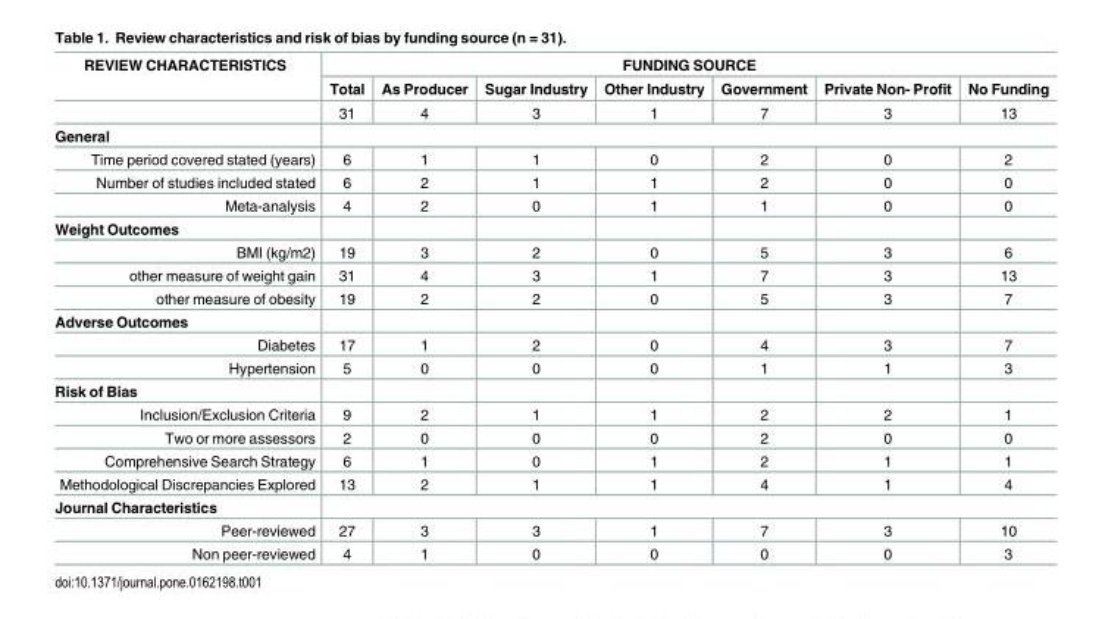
<table><thead><tr><td rowspan="2">REVIEW CHARACTERISTICS</td><td colspan="7">FUNDING SOURCE</td></tr><tr><td>Total</td><td>As Producer</td><td>Sugar Industry</td><td>Other Industry</td><td>Government</td><td>Private Non- Profit</td><td>No Funding</td></tr></thead><tbody><tr><td></td><td>31</td><td>4</td><td>3</td><td>1</td><td>7</td><td>3</td><td>13</td></tr><tr><td colspan="8">General</td></tr><tr><td>Time period covered stated (years)</td><td>6</td><td>1</td><td>1</td><td>0</td><td>2</td><td>0</td><td>2</td></tr><tr><td>Number of studies included stated</td><td>6</td><td>2</td><td>1</td><td>1</td><td>2</td><td>0</td><td>0</td></tr><tr><td>Meta-analysis</td><td>4</td><td>2</td><td>0</td><td>1</td><td>1</td><td>0</td><td>0</td></tr><tr><td colspan="8">Weight Outcomes</td></tr><tr><td>BMI (kg/m2)</td><td>19</td><td>3</td><td>2</td><td>0</td><td>5</td><td>3</td><td>6</td></tr><tr><td>other measure of weight gain</td><td>31</td><td>4</td><td>3</td><td>1</td><td>7</td><td>3</td><td>13</td></tr><tr><td>other measure of obesity</td><td>19</td><td>2</td><td>2</td><td>0</td><td>5</td><td>3</td><td>7</td></tr><tr><td colspan="8">Adverse Outcomes</td></tr><tr><td>Diabetes</td><td>17</td><td>1</td><td>2</td><td>0</td><td>4</td><td>3</td><td>7</td></tr><tr><td>Hypertension</td><td>5</td><td>0</td><td>0</td><td>0</td><td>1</td><td>1</td><td>3</td></tr><tr><td colspan="8">Risk of Bias</td></tr><tr><td>Inclusion/Exclusion Criteria</td><td>9</td><td>2</td><td>1</td><td>1</td><td>2</td><td>2</td><td>1</td></tr><tr><td>Two or more assessors</td><td>2</td><td>0</td><td>0</td><td>0</td><td>2</td><td>0</td><td>0</td></tr><tr><td>Comprehensive Search Strategy</td><td>6</td><td>1</td><td>0</td><td>1</td><td>2</td><td>1</td><td>1</td></tr><tr><td>Methodological Discrepancies Explored</td><td>13</td><td>2</td><td>1</td><td>1</td><td>4</td><td>1</td><td>4</td></tr><tr><td colspan="8">Journal Characteristics</td></tr><tr><td>Peer-reviewed</td><td>27</td><td>3</td><td>3</td><td>1</td><td>7</td><td>3</td><td>10</td></tr><tr><td>Non peer-reviewed</td><td>4</td><td>1</td><td>0</td><td>0</td><td>0</td><td>0</td><td>3</td></tr></tbody></table>